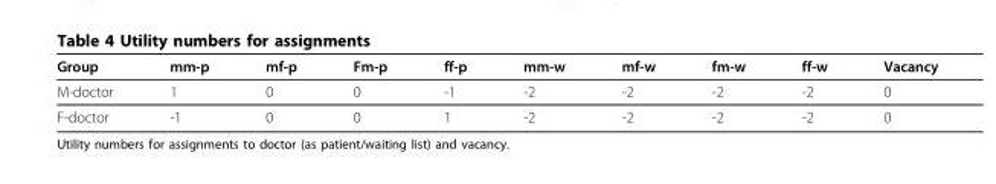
<table><thead><tr><td>Group</td><td>mm-p</td><td>mf-p</td><td>Fm-p</td><td>ff-p</td><td>mm-w</td><td>mf-w</td><td>fm-w</td><td>ff-w</td><td>Vacancy</td></tr></thead><tbody><tr><td>M-doctor</td><td>1</td><td>0</td><td>0</td><td>-1</td><td>-2</td><td>-2</td><td>-2</td><td>-2</td><td>0</td></tr><tr><td>F-doctor</td><td>-1</td><td>0</td><td>0</td><td>1</td><td>-2</td><td>-2</td><td>-2</td><td>-2</td><td>0</td></tr></tbody></table>